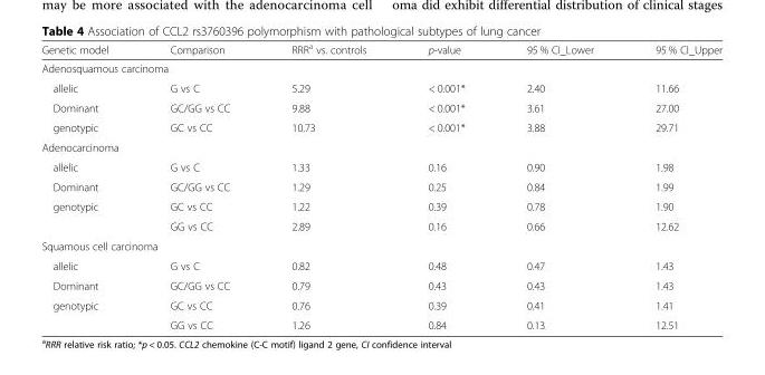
<table><thead><tr><td>Genetic model</td><td>Comparison</td><td>RRR<sup>a</sup> vs. controls</td><td>p-value</td><td>95 % CI_Lower</td><td>95 % CI_Upper</td></tr></thead><tbody><tr><td colspan="6">Adenosquamous carcinoma</td></tr><tr><td>allelic</td><td>G vs C</td><td>5.29</td><td>&lt; 0.001*</td><td>2.40</td><td>11.66</td></tr><tr><td>Dominant</td><td>GC/GG vs CC</td><td>9.88</td><td>&lt; 0.001*</td><td>3.61</td><td>27.00</td></tr><tr><td>genotypic</td><td>GC vs CC</td><td>10.73</td><td>&lt; 0.001*</td><td>3.88</td><td>29.71</td></tr><tr><td colspan="6">Adenocarcinoma</td></tr><tr><td>allelic</td><td>G vs C</td><td>1.33</td><td>0.16</td><td>0.90</td><td>1.98</td></tr><tr><td>Dominant</td><td>GC/GG vs CC</td><td>1.29</td><td>0.25</td><td>0.84</td><td>1.99</td></tr><tr><td rowspan="2">genotypic</td><td>GC vs CC</td><td>1.22</td><td>0.39</td><td>0.78</td><td>1.90</td></tr><tr><td>GG vs CC</td><td>2.89</td><td>0.16</td><td>0.66</td><td>12.62</td></tr><tr><td colspan="6">Squamous cell carcinoma</td></tr><tr><td>allelic</td><td>G vs C</td><td>0.82</td><td>0.48</td><td>0.47</td><td>1.43</td></tr><tr><td>Dominant</td><td>GC/GG vs CC</td><td>0.79</td><td>0.43</td><td>0.43</td><td>1.43</td></tr><tr><td rowspan="2">genotypic</td><td>GC vs CC</td><td>0.76</td><td>0.39</td><td>0.41</td><td>1.41</td></tr><tr><td>GG vs CC</td><td>1.26</td><td>0.84</td><td>0.13</td><td>12.51</td></tr></tbody></table>